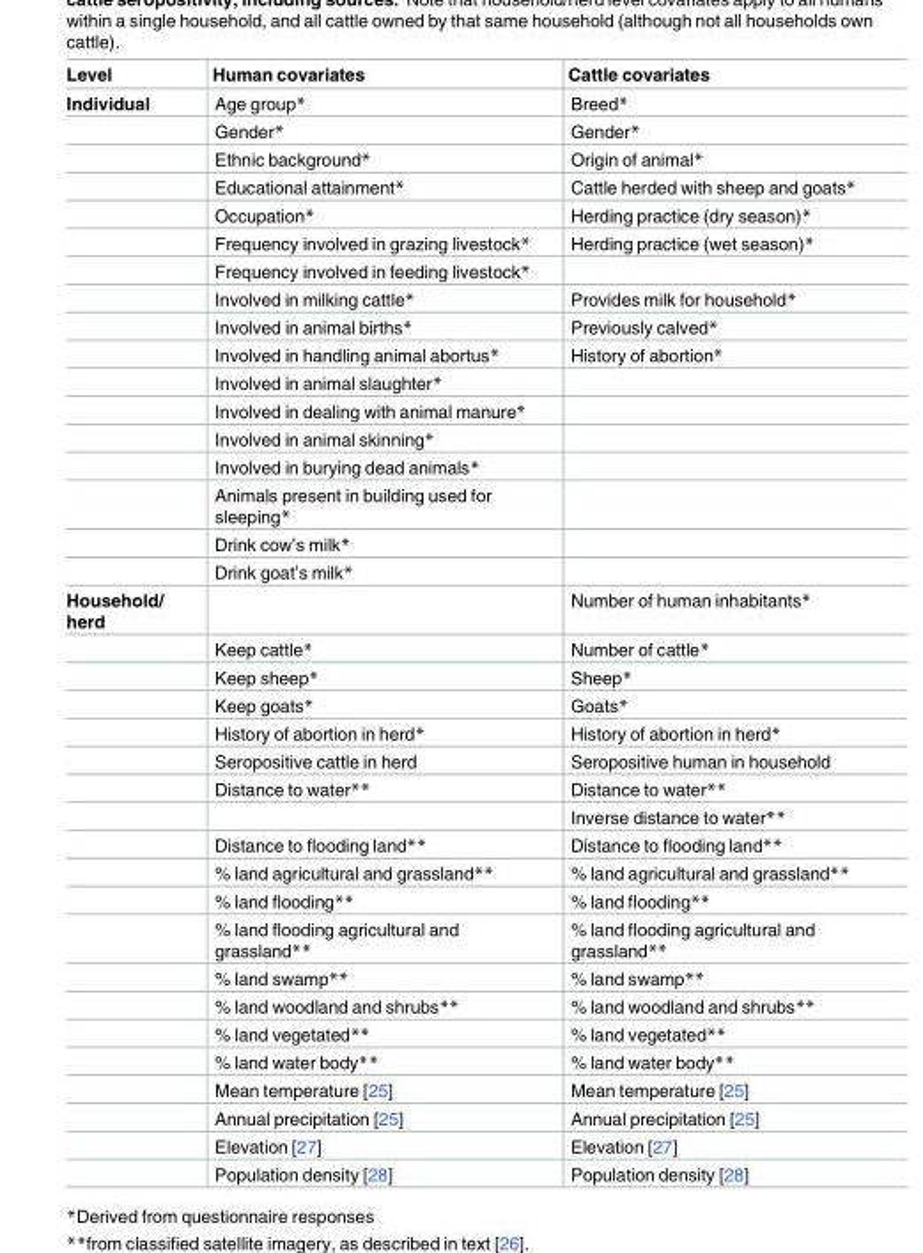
<table><thead><tr><td>Level</td><td>Human covariates</td><td>Cattle covariates</td></tr></thead><tbody><tr><td rowspan="17">Individual</td><td>Age group*</td><td>Breed*</td></tr><tr><td>Gender*</td><td>Gender*</td></tr><tr><td>Ethnic background*</td><td>Origin of animal*</td></tr><tr><td>Educational attainment*</td><td>Cattle herded with sheep and goats*</td></tr><tr><td>Occupation*</td><td>Herding practice (dry season)*</td></tr><tr><td>Frequency involved in grazing livestock*</td><td>Herding practice (wet season)*</td></tr><tr><td>Frequency involved in feeding livestock*</td><td></td></tr><tr><td>Involved in milking cattle*</td><td>Provides milk for household*</td></tr><tr><td>Involved in animal births*</td><td>Previously calved*</td></tr><tr><td>Involved in handling animal abortus*</td><td>History of abortion*</td></tr><tr><td>Involved in animal slaughter*</td><td></td></tr><tr><td>Involved in dealing with animal manure*</td><td></td></tr><tr><td>Involved in animal skinning*</td><td></td></tr><tr><td>Involved in burying dead animals*</td><td></td></tr><tr><td>Animals present in building used for sleeping*</td><td></td></tr><tr><td>Drink cow’s milk*</td><td></td></tr><tr><td>Drink goat’s milk*</td><td></td></tr><tr><td rowspan="20">Household/ herd</td><td></td><td>Number of human inhabitants*</td></tr><tr><td>Keep cattle*</td><td>Number of cattle*</td></tr><tr><td>Keep sheep*</td><td>Sheep*</td></tr><tr><td>Keep goats*</td><td>Goats*</td></tr><tr><td>History of abortion in herd*</td><td>History of abortion in herd*</td></tr><tr><td>Seropositive cattle in herd</td><td>Seropositive human in household</td></tr><tr><td>Distance to water**</td><td>Distance to water**</td></tr><tr><td></td><td>Inverse distance to water**</td></tr><tr><td>Distance to flooding land**</td><td>Distance to flooding land**</td></tr><tr><td>% land agricultural and grassland**</td><td>% land agricultural and grassland**</td></tr><tr><td>% land flooding**</td><td>% land flooding**</td></tr><tr><td>% land flooding agricultural and grassland**</td><td>% land flooding agricultural and grassland**</td></tr><tr><td>% land swamp**</td><td>% land swamp**</td></tr><tr><td>% land woodland and shrubs**</td><td>% land woodland and shrubs**</td></tr><tr><td>% land vegetated**</td><td>% land vegetated**</td></tr><tr><td>% land water body**</td><td>% land water body**</td></tr><tr><td>Mean temperature [25]</td><td>Mean temperature [25]</td></tr><tr><td>Annual precipitation [25]</td><td>Annual precipitation [25]</td></tr><tr><td>Elevation [27]</td><td>Elevation [27]</td></tr><tr><td>Population density [28]</td><td>Population density [28]</td></tr></tbody></table>